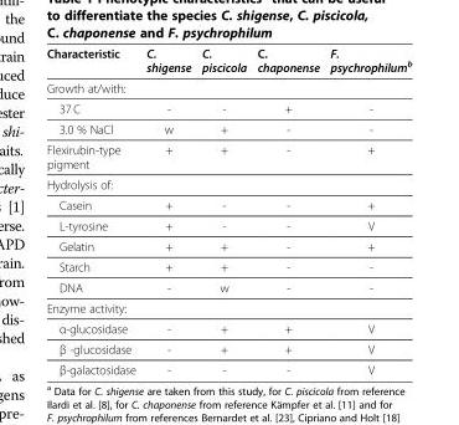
<table><thead><tr><td>Characteristic</td><td>C. shigense</td><td>C. piscicola</td><td>C. chaponense</td><td>F. psychrophilum<sup>b</sup></td></tr></thead><tbody><tr><td colspan="5">Growth at/with:</td></tr><tr><td>37 C</td><td>-</td><td>-</td><td>+</td><td>-</td></tr><tr><td>3.0 % NaCl</td><td>w</td><td>+</td><td>-</td><td>-</td></tr><tr><td>Flexirubin-type pigment</td><td>+</td><td>+</td><td>-</td><td>+</td></tr><tr><td colspan="5">Hydrolysis of:</td></tr><tr><td>Casein</td><td>+</td><td>-</td><td>-</td><td>+</td></tr><tr><td>L-tyrosine</td><td>+</td><td>-</td><td>-</td><td>V</td></tr><tr><td>Gelatin</td><td>+</td><td>+</td><td>-</td><td>+</td></tr><tr><td>Starch</td><td>+</td><td>+</td><td>-</td><td>-</td></tr><tr><td>DNA</td><td>-</td><td>w</td><td>-</td><td>-</td></tr><tr><td colspan="5">Enzyme activity:</td></tr><tr><td>α-glucosidase</td><td>-</td><td>+</td><td>+</td><td>V</td></tr><tr><td>β -glucosidase</td><td>-</td><td>+</td><td>+</td><td>V</td></tr><tr><td>β-galactosidase</td><td>-</td><td>-</td><td>-</td><td>V</td></tr></tbody></table>